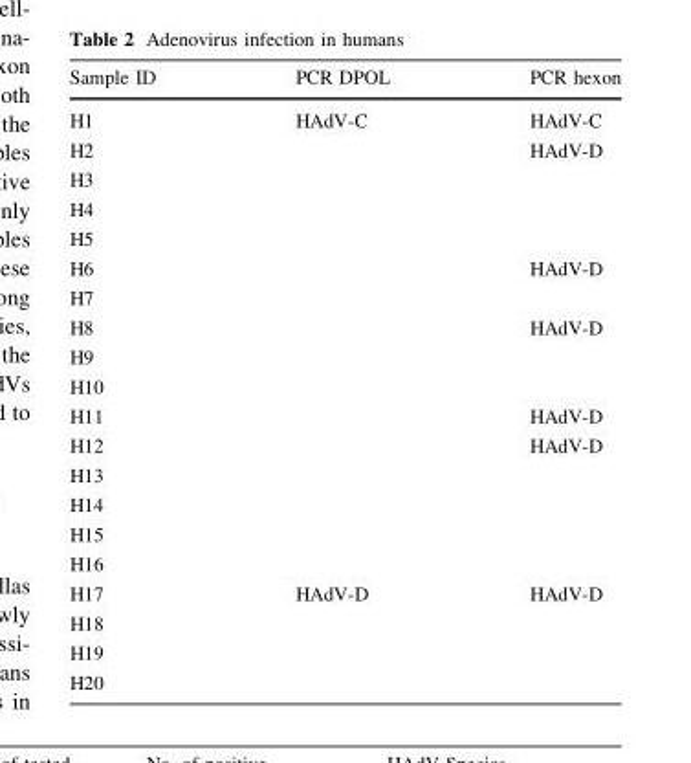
<table><thead><tr><td>Sample ID</td><td>PCR DPOL</td><td>PCR hexon</td></tr></thead><tbody><tr><td>H1</td><td>HAdV-C</td><td>HAdV-C</td></tr><tr><td>H2</td><td></td><td>HAdV-D</td></tr><tr><td colspan="3">H3</td></tr><tr><td colspan="3">H4</td></tr><tr><td colspan="3">H5</td></tr><tr><td>H6</td><td></td><td>HAdV-D</td></tr><tr><td colspan="3">H7</td></tr><tr><td>H8</td><td></td><td>HAdV-D</td></tr><tr><td colspan="3">H9</td></tr><tr><td colspan="3">H10</td></tr><tr><td>H11</td><td></td><td>HAdV-D</td></tr><tr><td>H12</td><td></td><td>HAdV-D</td></tr><tr><td colspan="3">H13</td></tr><tr><td colspan="3">H14</td></tr><tr><td colspan="3">H15</td></tr><tr><td colspan="3">H16</td></tr><tr><td>H17</td><td>HAdV-D</td><td>HAdV-D</td></tr><tr><td colspan="3">H18</td></tr><tr><td colspan="3">H19</td></tr><tr><td>H20</td><td></td><td></td></tr></tbody></table>